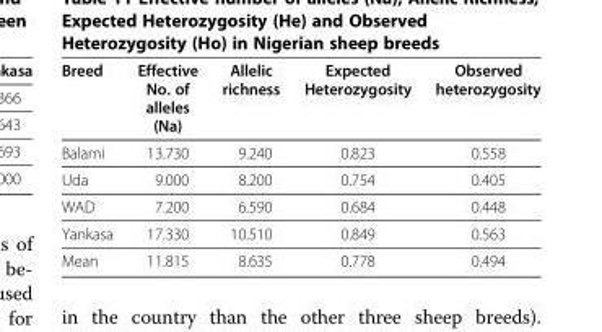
<table><thead><tr><td>Breed</td><td>Effective No. of alleles (Na)</td><td>Allelic richness</td><td>Expected Heterozygosity</td><td>Observed heterozygosity</td></tr></thead><tbody><tr><td>Balami</td><td>13.730</td><td>9.240</td><td>0.823</td><td>0.558</td></tr><tr><td>Uda</td><td>9.000</td><td>8.200</td><td>0.754</td><td>0.405</td></tr><tr><td>WAD</td><td>7.200</td><td>6.590</td><td>0.684</td><td>0.448</td></tr><tr><td>Yankasa</td><td>17.330</td><td>10.510</td><td>0.849</td><td>0.563</td></tr><tr><td>Mean</td><td>11.815</td><td>8.635</td><td>0.778</td><td>0.494</td></tr></tbody></table>